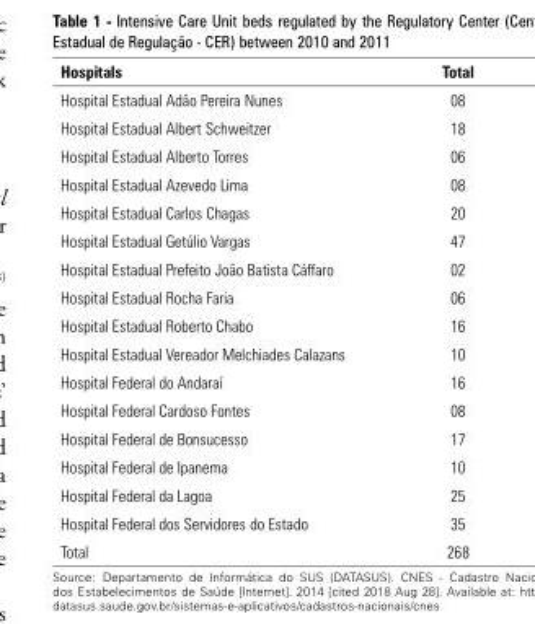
<table><thead><tr><td>Hospitals</td><td>Total</td></tr></thead><tbody><tr><td>Hospital Estadual Adão Pereira Nunes</td><td>08</td></tr><tr><td>Hospital Estadual Albert Schweitzer</td><td>18</td></tr><tr><td>Hospital Estadual Alberto Torres</td><td>06</td></tr><tr><td>Hospital Estadual Azevedo Lima</td><td>08</td></tr><tr><td>Hospital Estadual Carlos Chagas</td><td>20</td></tr><tr><td>Hospital Estadual Getúlio Vargas</td><td>47</td></tr><tr><td>Hospital Estadual Prefeito João Batista Cáffaro</td><td>02</td></tr><tr><td>Hospital Estadual Rocha Faria</td><td>06</td></tr><tr><td>Hospital Estadual Roberto Chabo</td><td>16</td></tr><tr><td>Hospital Estadual Vereador Melchiades Calazans</td><td>10</td></tr><tr><td>Hospital Federal do Andaraí</td><td>16</td></tr><tr><td>Hospital Federal Cardoso Fontes</td><td>08</td></tr><tr><td>Hospital Federal de Bonsucesso</td><td>17</td></tr><tr><td>Hospital Federal de Ipanema</td><td>10</td></tr><tr><td>Hospital Federal da Lagoa</td><td>25</td></tr><tr><td>Hospital Federal dos Servidores do Estado</td><td>35</td></tr><tr><td>Total</td><td>268</td></tr></tbody></table>